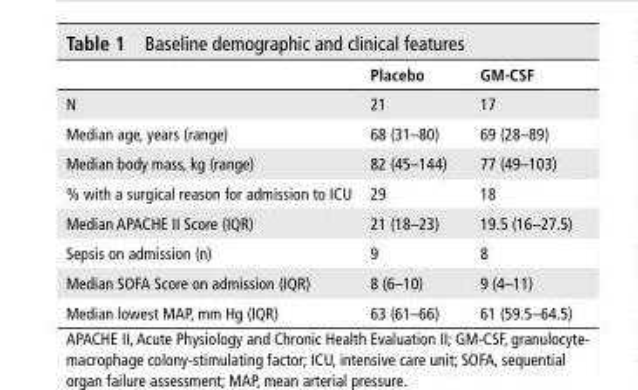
<table><thead><tr><td></td><td>Placebo</td><td>GM-CsF</td></tr></thead><tbody><tr><td>N</td><td>21</td><td>17</td></tr><tr><td>Median age, years (range)</td><td>68 (31–80)</td><td>69 (28–89)</td></tr><tr><td>Median body mass, kg (range)</td><td>82 (45–144)</td><td>77 (49–103)</td></tr><tr><td>% with a surgical reason for admission to ICU</td><td>29</td><td>18</td></tr><tr><td>Median APACHE II Score (IQR)</td><td>21 (18–23)</td><td>19.5 (16–27.5)</td></tr><tr><td>Sepsis on admission (n)</td><td>9</td><td>8</td></tr><tr><td>Median SOFA Score on admission (IQR)</td><td>8 (6–10)</td><td>9 (4–11)</td></tr><tr><td>Median lowest MAP, mm Hg (IQR)</td><td>63 (61–66)</td><td>61 (59.5–64.5)</td></tr></tbody></table>